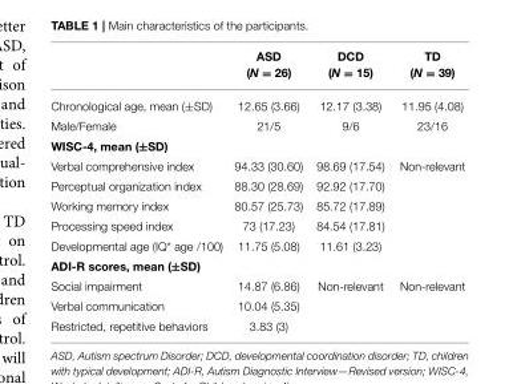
<table><thead><tr><td></td><td>ASD (N = 26)</td><td>DCD (N = 15)</td><td>TD (N = 39)</td></tr></thead><tbody><tr><td>Chronological age, mean (±SD)</td><td>12.65 (3.66)</td><td>12.17 (3.38)</td><td>11.95 (4.08)</td></tr><tr><td>Male/Female</td><td>21/5</td><td>9/6</td><td>23/16</td></tr><tr><td colspan="4">WISC-4, mean (±SD)</td></tr><tr><td>Verbal comprehensive index</td><td>94.33 (30.60)</td><td>98.69 (17.54)</td><td>Non-relevant</td></tr><tr><td>Perceptual organization index</td><td>88.30 (28.69)</td><td>92.92 (17.70)</td><td></td></tr><tr><td>Working memory index</td><td>80.57 (25.73)</td><td>85.72 (17.89)</td><td></td></tr><tr><td>Processing speed index</td><td>73 (17.23)</td><td>84.54 (17.81)</td><td></td></tr><tr><td>Developmental age (IQ* age /100)</td><td>11.75 (5.08)</td><td>11.61 (3.23)</td><td></td></tr><tr><td colspan="4">ADI-R scores, mean (±SD)</td></tr><tr><td>Social impairment</td><td>14.87 (6.86)</td><td>Non-relevant</td><td>Non-relevant</td></tr><tr><td>Verbal communication</td><td>10.04 (5.35)</td><td></td><td></td></tr><tr><td>Restricted, repetitive behaviors</td><td>3.83 (3)</td><td></td><td></td></tr></tbody></table>